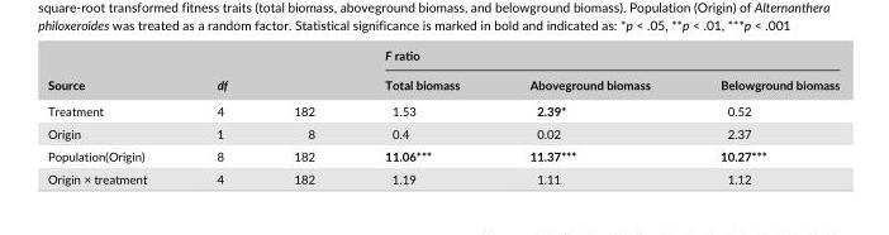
<table><thead><tr><td rowspan="3">Source Treatment</td><td rowspan="2" colspan="2">df</td><td colspan="3">F ratio</td></tr><tr><td rowspan="2">Total biomass 1.53</td><td rowspan="2">Aboveground biomass 2.39*</td><td rowspan="2">Belowground biomass 0.52</td></tr><tr><td>4</td><td>182</td></tr></thead><tbody><tr><td>Origin</td><td>1</td><td>8</td><td>0.4</td><td>0.02</td><td>2.37</td></tr><tr><td>Population(Origin)</td><td>8</td><td>182</td><td>11.06***</td><td>11.37***</td><td>10.27***</td></tr><tr><td>Origin × treatment</td><td>4</td><td>182</td><td>1.19</td><td>1.11</td><td>1.12</td></tr></tbody></table>